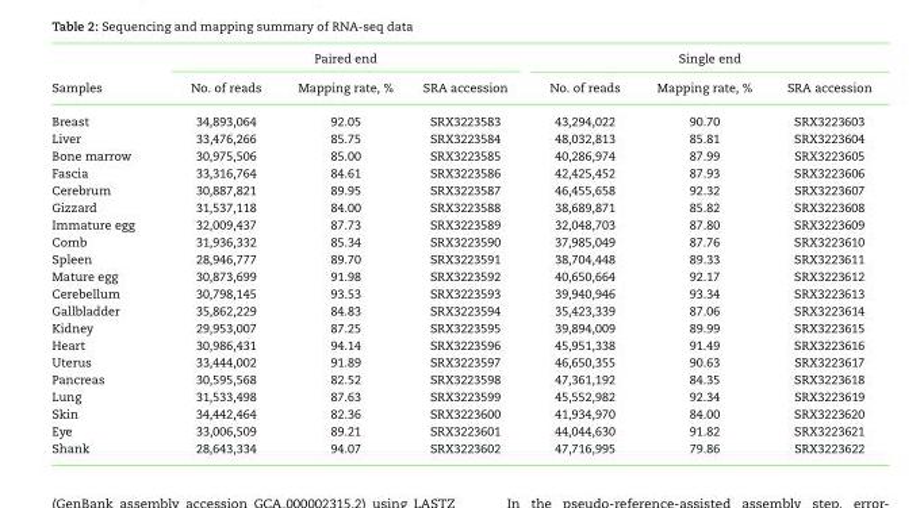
<table><thead><tr><td rowspan="2">Samples</td><td colspan="3">Paired end</td><td colspan="3">Single end</td></tr><tr><td>No. of reads</td><td>Mapping rate, %</td><td>SRA accession</td><td>No. of reads</td><td>Mapping rate, %</td><td>SRA accession</td></tr></thead><tbody><tr><td>Breast</td><td>34,893,064</td><td>92.05</td><td>SRX3223583</td><td>43,294,022</td><td>90.70</td><td>SRX3223603</td></tr><tr><td>Liver</td><td>33,476,266</td><td>85.75</td><td>SRX3223584</td><td>48,032,813</td><td>85.81</td><td>SRX3223604</td></tr><tr><td>Bone marrow</td><td>30,975,506</td><td>85.00</td><td>SRX3223585</td><td>40,286,974</td><td>87.99</td><td>SRX3223605</td></tr><tr><td>Fascia</td><td>33,316,764</td><td>84.61</td><td>SRX3223586</td><td>42,425,452</td><td>87.93</td><td>SRX3223606</td></tr><tr><td>Cerebrum</td><td>30,887,821</td><td>89.95</td><td>SRX3223587</td><td>46,455,658</td><td>92.32</td><td>SRX3223607</td></tr><tr><td>Gizzard</td><td>31,537,118</td><td>84.00</td><td>SRX3223588</td><td>38,689,871</td><td>85.82</td><td>SRX3223608</td></tr><tr><td>Immature egg</td><td>32,009,437</td><td>87.73</td><td>SRX3223589</td><td>32,048,703</td><td>87.80</td><td>SRX3223609</td></tr><tr><td>Comb</td><td>31,936,332</td><td>85.34</td><td>SRX3223590</td><td>37,985,049</td><td>87.76</td><td>SRX3223610</td></tr><tr><td>Spleen</td><td>28,946,777</td><td>89.70</td><td>SRX3223591</td><td>38,704,448</td><td>89.33</td><td>SRX3223611</td></tr><tr><td>Mature egg</td><td>30,873,699</td><td>91.98</td><td>SRX3223592</td><td>40,650,664</td><td>92.17</td><td>SRX3223612</td></tr><tr><td>Cerebellum</td><td>30,798,145</td><td>93.53</td><td>SRX3223593</td><td>39,940,946</td><td>93.34</td><td>SRX3223613</td></tr><tr><td>Gallbladder</td><td>35,862,229</td><td>84.83</td><td>SRX3223594</td><td>35,423,339</td><td>87.06</td><td>SRX3223614</td></tr><tr><td>Kidney</td><td>29,953,007</td><td>87.25</td><td>SRX3223595</td><td>39,894,009</td><td>89.99</td><td>SRX3223615</td></tr><tr><td>Heart</td><td>30,986,431</td><td>94.14</td><td>SRX3223596</td><td>45,951,338</td><td>91.49</td><td>SRX3223616</td></tr><tr><td>Uterus</td><td>33,444,002</td><td>91.89</td><td>SRX3223597</td><td>46,650,355</td><td>90.63</td><td>SRX3223617</td></tr><tr><td>Pancreas</td><td>30,595,568</td><td>82.52</td><td>SRX3223598</td><td>47,361,192</td><td>84.35</td><td>SRX3223618</td></tr><tr><td>Lung</td><td>31,533,498</td><td>87.63</td><td>SRX3223599</td><td>45,552,982</td><td>92.34</td><td>SRX3223619</td></tr><tr><td>Skin</td><td>34,442,464</td><td>82.36</td><td>SRX3223600</td><td>41,934,970</td><td>84.00</td><td>SRX3223620</td></tr><tr><td>Eye</td><td>33,006,509</td><td>89.21</td><td>SRX3223601</td><td>44,044,630</td><td>91.82</td><td>SRX3223621</td></tr><tr><td>Shank</td><td>28,643,334</td><td>94.07</td><td>SRX3223602</td><td>47,716,995</td><td>79.86</td><td>SRX3223622</td></tr></tbody></table>